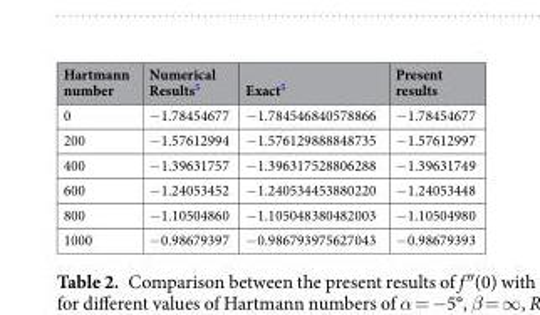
<table><thead><tr><td>Hartmann number</td><td>Numerical Results<sup>5</sup></td><td>Exact<sup>5</sup></td><td>Present results</td></tr></thead><tbody><tr><td>0</td><td>−1.78454677</td><td>−1.784546840578866</td><td>−1.78454677</td></tr><tr><td>200</td><td>−1.57612994</td><td>−1.576129888848735</td><td>−1.57612997</td></tr><tr><td>400</td><td>−1.39631757</td><td>−1.396317528806288</td><td>−1.39631749</td></tr><tr><td>600</td><td>−1.24053452</td><td>−1.240534453880220</td><td>−1.24053448</td></tr><tr><td>800</td><td>−1.10504860</td><td>−1.105048380482003</td><td>−1.10504980</td></tr><tr><td>1000</td><td>−0.98679397</td><td>−0.986793975627043</td><td>−0.98679393</td></tr></tbody></table>